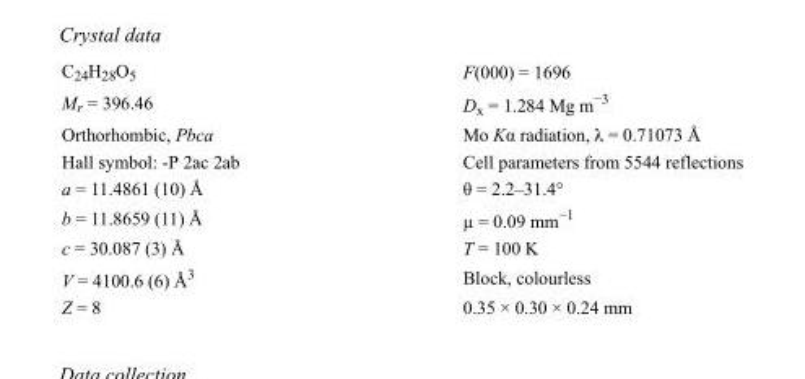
<table><tbody><tr><td>C<sub>24</sub>H<sub>28</sub>O<sub>5</sub></td><td>F(000) = 1696</td></tr><tr><td>M<sub>r</sub> = 396.46</td><td>D<sub>x</sub> = 1.284 Mg m<sup>−3</sup></td></tr><tr><td>Orthorhombic, Pbca</td><td>Mo Kα radiation, λ = 0.71073 Å</td></tr><tr><td>Hall symbol: -P 2ac 2ab</td><td>Cell parameters from 5544 reflections</td></tr><tr><td>a = 11.4861 (10) Å</td><td>θ = 2.2–31.4°</td></tr><tr><td>b = 11.8659 (11) Å</td><td>µ = 0.09 mm<sup>−1</sup></td></tr><tr><td>c = 30.087 (3) Å</td><td>T = 100 K</td></tr><tr><td>V = 4100.6 (6) Å<sup>3</sup></td><td>Block, colourless</td></tr><tr><td>Z = 8</td><td>0.35 × 0.30 × 0.24 mm</td></tr></tbody></table>